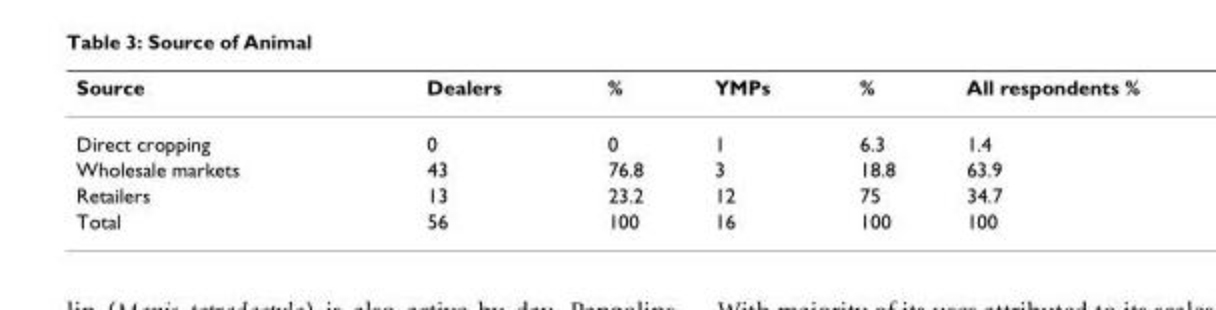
<table><thead><tr><td>Source</td><td>Dealers</td><td>%</td><td>YMPs</td><td>%</td><td>All respondents %</td></tr></thead><tbody><tr><td>Direct cropping</td><td>0</td><td>0</td><td>1</td><td>6.3</td><td>1.4</td></tr><tr><td>Wholesale markets</td><td>43</td><td>76.8</td><td>3</td><td>18.8</td><td>63.9</td></tr><tr><td>Retailers</td><td>13</td><td>23.2</td><td>12</td><td>75</td><td>34.7</td></tr><tr><td>Total</td><td>56</td><td>100</td><td>16</td><td>100</td><td>100</td></tr></tbody></table>